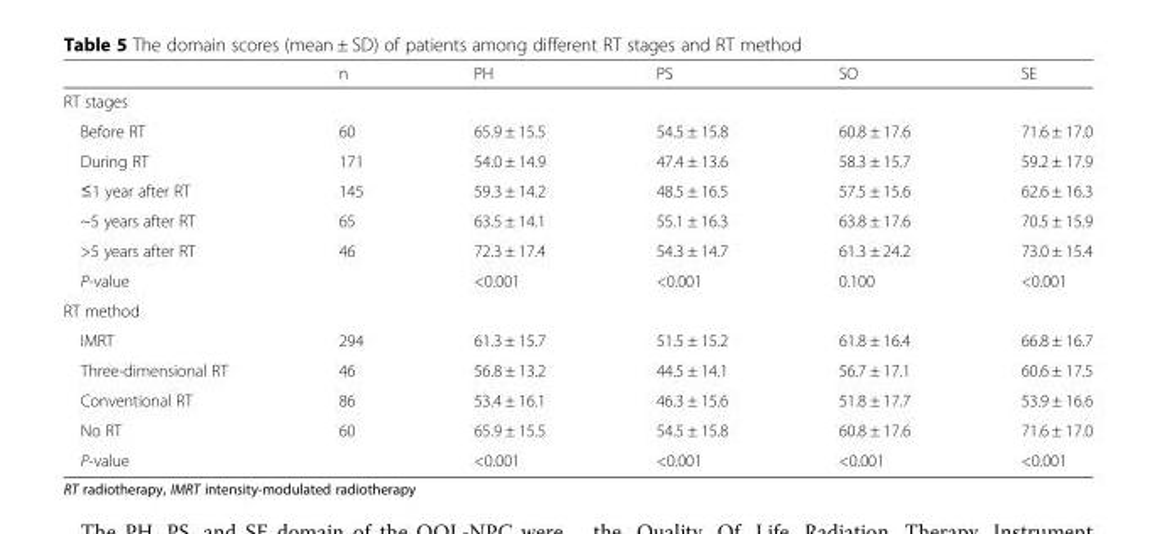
<table><thead><tr><td></td><td>n</td><td>PH</td><td>PS</td><td>SO</td><td>SE</td></tr></thead><tbody><tr><td colspan="6">RT stages</td></tr><tr><td>Before RT</td><td>60</td><td>65.9 ± 15.5</td><td>54.5 ± 15.8</td><td>60.8 ± 17.6</td><td>71.6 ± 17.0</td></tr><tr><td>During RT</td><td>171</td><td>54.0 ± 14.9</td><td>47.4 ± 13.6</td><td>58.3 ± 15.7</td><td>59.2 ± 17.9</td></tr><tr><td>≤1 year after RT</td><td>145</td><td>59.3 ± 14.2</td><td>48.5 ± 16.5</td><td>57.5 ± 15.6</td><td>62.6 ± 16.3</td></tr><tr><td>~5 years after RT</td><td>65</td><td>63.5 ± 14.1</td><td>55.1 ± 16.3</td><td>63.8 ± 17.6</td><td>70.5 ± 15.9</td></tr><tr><td>&gt;5 years after RT</td><td>46</td><td>72.3 ± 17.4</td><td>54.3 ± 14.7</td><td>61.3 ± 24.2</td><td>73.0 ± 15.4</td></tr><tr><td>P-value</td><td></td><td>&lt;0.001</td><td>&lt;0.001</td><td>0.100</td><td>&lt;0.001</td></tr><tr><td colspan="6">RT method</td></tr><tr><td>IMRT</td><td>294</td><td>61.3 ± 15.7</td><td>51.5 ± 15.2</td><td>61.8 ± 16.4</td><td>66.8 ± 16.7</td></tr><tr><td>Three-dimensional RT</td><td>46</td><td>56.8 ± 13.2</td><td>44.5 ± 14.1</td><td>56.7 ± 17.1</td><td>60.6 ± 17.5</td></tr><tr><td>Conventional RT</td><td>86</td><td>53.4 ± 16.1</td><td>46.3 ± 15.6</td><td>51.8 ± 17.7</td><td>53.9 ± 16.6</td></tr><tr><td>No RT</td><td>60</td><td>65.9 ± 15.5</td><td>54.5 ± 15.8</td><td>60.8 ± 17.6</td><td>71.6 ± 17.0</td></tr><tr><td>P-value</td><td></td><td>&lt;0.001</td><td>&lt;0.001</td><td>&lt;0.001</td><td>&lt;0.001</td></tr></tbody></table>